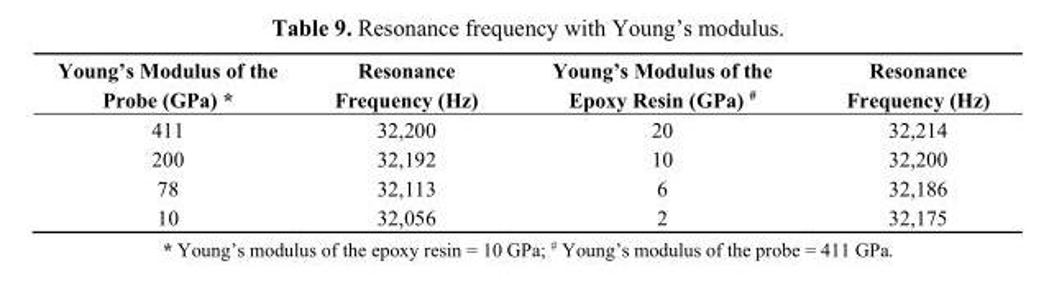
<table><thead><tr><td>Young’s Modulus of the Probe (GPa) *</td><td>Resonance Frequency (Hz)</td><td>Young’s Modulus of the Epoxy Resin (GPa) <sup>#</sup></td><td>Resonance Frequency (Hz)</td></tr></thead><tbody><tr><td>411</td><td>32,200</td><td>20</td><td>32,214</td></tr><tr><td>200</td><td>32,192</td><td>10</td><td>32,200</td></tr><tr><td>78</td><td>32,113</td><td>6</td><td>32,186</td></tr><tr><td>10</td><td>32,056</td><td>2</td><td>32,175</td></tr></tbody></table>